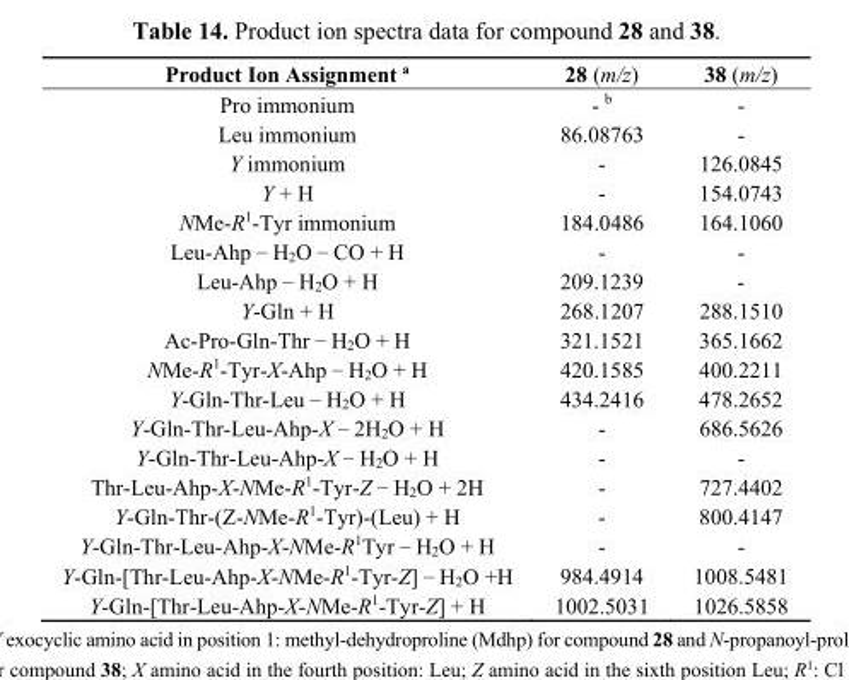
<table><thead><tr><td>Product Ion Assignment <sup>a</sup></td><td>28 (m/z)</td><td>38 (m/z)</td></tr></thead><tbody><tr><td>Pro immonium</td><td>- <sup>b</sup></td><td>-</td></tr><tr><td>Leu immonium</td><td>86.08763</td><td>-</td></tr><tr><td>Y immonium</td><td>-</td><td>126.0845</td></tr><tr><td>Y + H</td><td>-</td><td>154.0743</td></tr><tr><td>NMe-R<sup>1</sup>-Tyr immonium</td><td>184.0486</td><td>164.1060</td></tr><tr><td>Leu-Ahp − H<sub>2</sub>O − CO + H</td><td>-</td><td>-</td></tr><tr><td>Leu-Ahp − H<sub>2</sub>O + H</td><td>209.1239</td><td>-</td></tr><tr><td>Y-Gln + H</td><td>268.1207</td><td>288.1510</td></tr><tr><td>Ac-Pro-Gln-Thr − H<sub>2</sub>O + H</td><td>321.1521</td><td>365.1662</td></tr><tr><td>NMe-R<sup>1</sup>-Tyr-X-Ahp − H<sub>2</sub>O + H</td><td>420.1585</td><td>400.2211</td></tr><tr><td>Y-Gln-Thr-Leu − H<sub>2</sub>O + H</td><td>434.2416</td><td>478.2652</td></tr><tr><td>Y-Gln-Thr-Leu-Ahp-X − 2H<sub>2</sub>O + H</td><td>-</td><td>686.5626</td></tr><tr><td>Y-Gln-Thr-Leu-Ahp-X − H<sub>2</sub>O + H</td><td>-</td><td>-</td></tr><tr><td>Thr-Leu-Ahp-X-NMe-R<sup>1</sup>-Tyr-Z − H<sub>2</sub>O + 2H</td><td>-</td><td>727.4402</td></tr><tr><td>Y-Gln-Thr-(Z-NMe-R<sup>1</sup>-Tyr)-(Leu) + H</td><td>-</td><td>800.4147</td></tr><tr><td>Y-Gln-Thr-Leu-Ahp-X-NMe-R<sup>1</sup>Tyr − H<sub>2</sub>O + H</td><td>-</td><td>-</td></tr><tr><td>Y-Gln-[Thr-Leu-Ahp-X-NMe-R<sup>1</sup>-Tyr-Z] − H<sub>2</sub>O +H</td><td>984.4914</td><td>1008.5481</td></tr><tr><td>Y-Gln-[Thr-Leu-Ahp-X-NMe-R<sup>1</sup>-Tyr-Z] + H</td><td>1002.5031</td><td>1026.5858</td></tr></tbody></table>